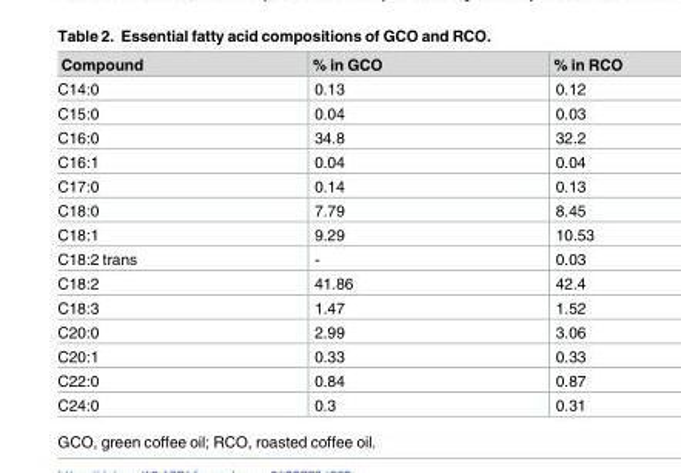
<table><thead><tr><td>Compound</td><td>% in GCO</td><td>% in RCO</td></tr></thead><tbody><tr><td>C14:0</td><td>0.13</td><td>0.12</td></tr><tr><td>C15:0</td><td>0.04</td><td>0.03</td></tr><tr><td>C16:0</td><td>34.8</td><td>32.2</td></tr><tr><td>C16:1</td><td>0.04</td><td>0.04</td></tr><tr><td>C17:0</td><td>0.14</td><td>0.13</td></tr><tr><td>C18:0</td><td>7.79</td><td>8.45</td></tr><tr><td>C18:1</td><td>9.29</td><td>10.53</td></tr><tr><td>C18:2 trans</td><td>-</td><td>0.03</td></tr><tr><td>C18:2</td><td>41.86</td><td>42.4</td></tr><tr><td>C18:3</td><td>1.47</td><td>1.52</td></tr><tr><td>C20:0</td><td>2.99</td><td>3.06</td></tr><tr><td>C20:1</td><td>0.33</td><td>0.33</td></tr><tr><td>C22:0</td><td>0.84</td><td>0.87</td></tr><tr><td>C24:0</td><td>0.3</td><td>0.31</td></tr></tbody></table>